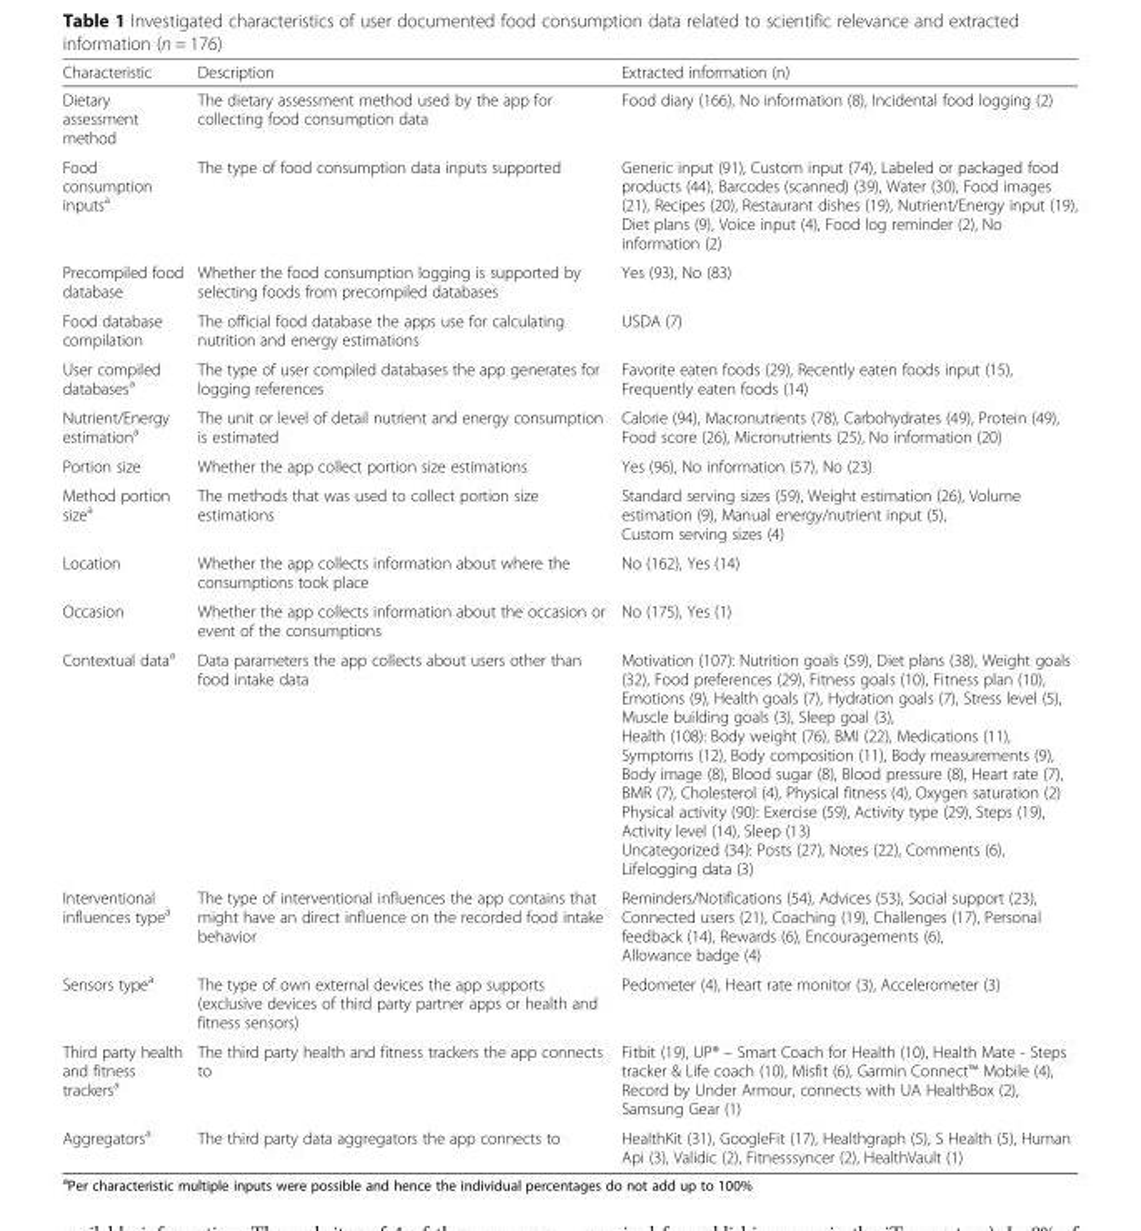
<table><thead><tr><td>Characteristic</td><td>Description</td><td>Extracted information (n)</td></tr></thead><tbody><tr><td>Dietary assessment method</td><td>The dietary assessment method used by the app for collecting food consumption data</td><td>Food diary (166), No information (8), Incidental food logging (2)</td></tr><tr><td>Food consumption inputs<sup>a</sup></td><td>The type of food consumption data inputs supported</td><td>Generic input (91), Custom input (74), Labeled or packaged food products (44), Barcodes (scanned) (39), Water (30), Food images (21), Recipes (20), Restaurant dishes (19), Nutrient/Energy input (19), Diet plans (9), Voice input (4), Food log reminder (2), No information (2)</td></tr><tr><td>Precompiled food database</td><td>Whether the food consumption logging is supported by selecting foods from precompiled databases</td><td>Yes (93), No (83)</td></tr><tr><td>Food database compilation</td><td>The official food database the apps use for calculating nutrition and energy estimations</td><td>USDA (7)</td></tr><tr><td>User compiled databases<sup>a</sup></td><td>The type of user compiled databases the app generates for logging references</td><td>Favorite eaten foods (29), Recently eaten foods input (15), Frequently eaten foods (14)</td></tr><tr><td>Nutrient/Energy estimation<sup>a</sup></td><td>The unit or level of detail nutrient and energy consumption is estimated</td><td>Calorie (94), Macronutrients (78), Carbohydrates (49), Protein (49), Food score (26), Micronutrients (25), No information (20)</td></tr><tr><td>Portion size</td><td>Whether the app collect portion size estimations</td><td>Yes (96), No information (57), No (23)</td></tr><tr><td>Method portion size<sup>a</sup></td><td>The methods that was used to collect portion size estimations</td><td>Standard serving sizes (59), Weight estimation (26), Volume estimation (9), Manual energy/nutrient input (5), Custom serving sizes (4)</td></tr><tr><td>Location</td><td>Whether the app collects information about where the consumptions took place</td><td>No (162), Yes (14)</td></tr><tr><td>Occasion</td><td>Whether the app collects information about the occasion or event of the consumptions</td><td>No (175), Yes (1)</td></tr><tr><td>Contextual data<sup>a</sup></td><td>Data parameters the app collects about users other than food intake data</td><td>Motivation (107): Nutrition goals (59), Diet plans (38), Weight goals (32), Food preferences (29), Fitness goals (10), Fitness plan (10), Emotions (9), Health goals (7), Hydration goals (7), Stress level (5), Muscle building goals (3), Sleep goal (3), Health (108): Body weight (76), BMI (22), Medications (11), Symptoms (12), Body composition (11), Body measurements (9), Body image (8), Blood sugar (8), Blood pressure (8), Heart rate (7), BMR (7), Cholesterol (4), Physical fitness (4), Oxygen saturation (2) Physical activity (90): Exercise (59), Activity type (29), Steps (19), Activity level (14), Sleep (13) Uncategorized (34): Posts (27), Notes (22), Comments (6), Lifelogging data (3)</td></tr><tr><td>Interventional influences type<sup>a</sup></td><td>The type of interventional influences the app contains that might have an direct influence on the recorded food intake behavior</td><td>Reminders/Notifications (54), Advices (53), Social support (23), Connected users (21), Coaching (19), Challenges (17), Personal feedback (14), Rewards (6), Encouragements (6), Allowance badge (4)</td></tr><tr><td>Sensors type<sup>a</sup></td><td>The type of own external devices the app supports (exclusive devices of third party partner apps or health and fitness sensors)</td><td>Pedometer (4), Heart rate monitor (3), Accelerometer (3)</td></tr><tr><td>Third party health and fitness trackers<sup>a</sup></td><td>The third party health and fitness trackers the app connects to</td><td>Fitbit (19), UP® – Smart Coach for Health (10), Health Mate - Steps tracker &amp; Life coach (10), Misfit (6), Garmin Connect™ Mobile (4), Record by Under Armour, connects with UA HealthBox (2), Samsung Gear (1)</td></tr><tr><td>Aggregators<sup>a</sup></td><td>The third party data aggregators the app connects to</td><td>HealthKit (31), GoogleFit (17), Healthgraph (5), S Health (5), Human Api (3), Validic (2), Fitnesssyncer (2), HealthVault (1)</td></tr></tbody></table>